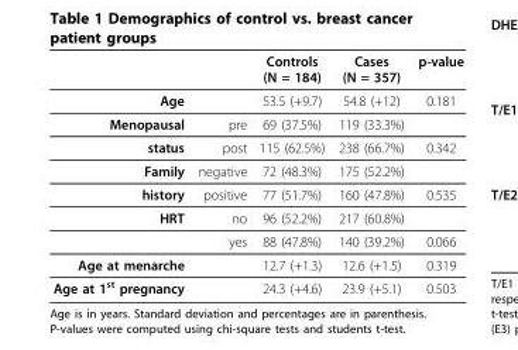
<table><thead><tr><td></td><td></td><td>Controls (N = 184)</td><td>Cases (N = 357)</td><td>p-value</td></tr></thead><tbody><tr><td>Age</td><td></td><td>53.5 (+9.7)</td><td>54.8 (+12)</td><td>0.181</td></tr><tr><td>Menopausal</td><td>pre</td><td>69 (37.5%)</td><td>119 (33.3%)</td><td></td></tr><tr><td>status</td><td>post</td><td>115 (62.5%)</td><td>238 (66.7%)</td><td>0.342</td></tr><tr><td>Family</td><td>negative</td><td>72 (48.3%)</td><td>175 (52.2%)</td><td></td></tr><tr><td>history</td><td>positive</td><td>77 (51.7%)</td><td>160 (47.8%)</td><td>0.535</td></tr><tr><td rowspan="2">HRT</td><td>no</td><td>96 (52.2%)</td><td>217 (60.8%)</td><td></td></tr><tr><td>yes</td><td>88 (47.8%)</td><td>140 (39.2%)</td><td>0.066</td></tr><tr><td>Age at menarche</td><td></td><td>12.7 (+1.3)</td><td>12.6 (+1.5)</td><td>0.319</td></tr><tr><td>Age at 1<sup>st</sup> pregnancy</td><td></td><td>24.3 (+4.6)</td><td>23.9 (+5.1)</td><td>0.503</td></tr></tbody></table>